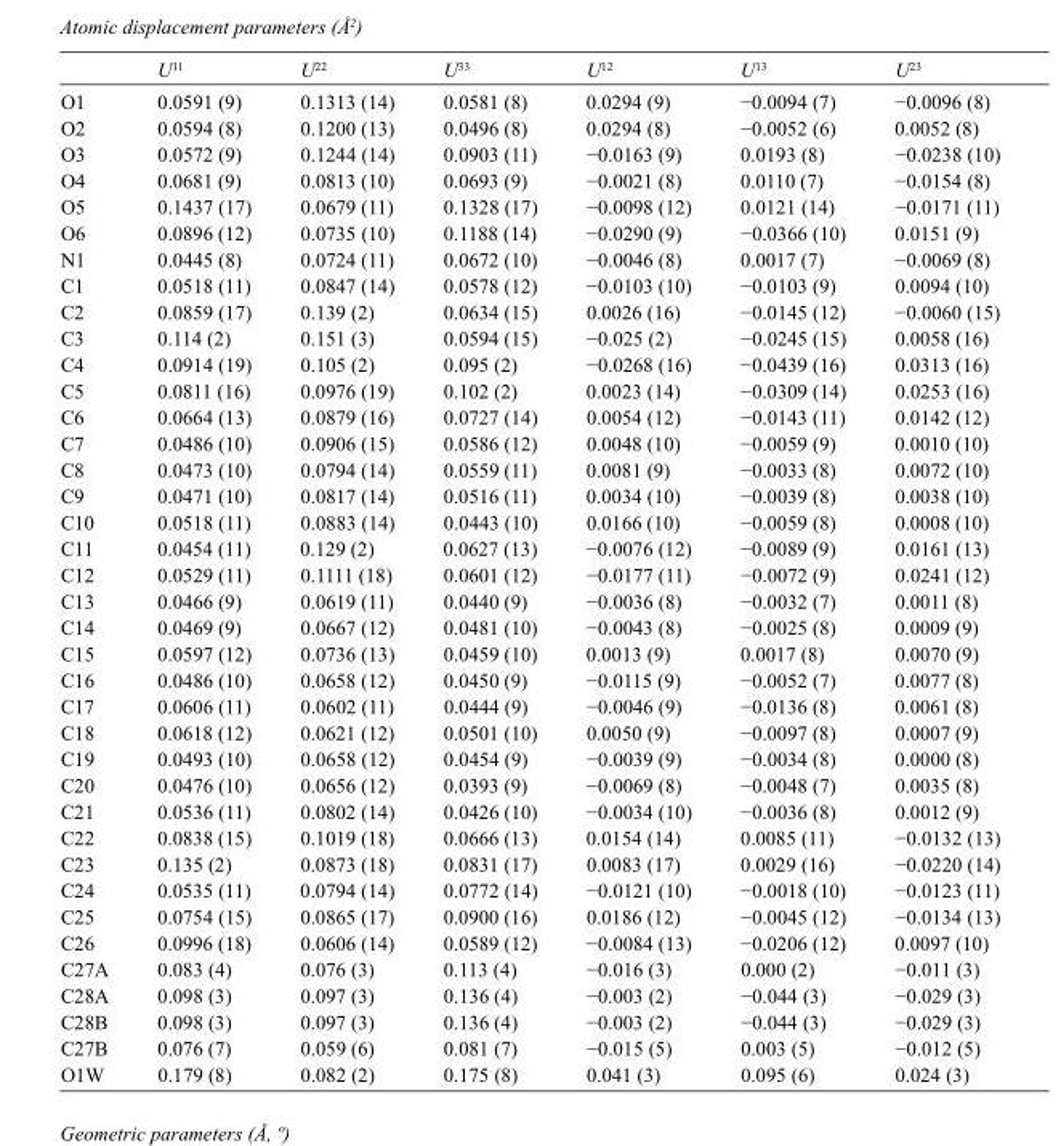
<table><thead><tr><td></td><td>U<sup>11</sup></td><td>U<sup>22</sup></td><td>U<sup>33</sup></td><td>U<sup>12</sup></td><td>U<sup>13</sup></td><td>U<sup>23</sup></td></tr></thead><tbody><tr><td>O1</td><td>0.0591 (9)</td><td>0.1313 (14)</td><td>0.0581 (8)</td><td>0.0294 (9)</td><td>−0.0094 (7)</td><td>−0.0096 (8)</td></tr><tr><td>O2</td><td>0.0594 (8)</td><td>0.1200 (13)</td><td>0.0496 (8)</td><td>0.0294 (8)</td><td>−0.0052 (6)</td><td>0.0052 (8)</td></tr><tr><td>O3</td><td>0.0572 (9)</td><td>0.1244 (14)</td><td>0.0903 (11)</td><td>−0.0163 (9)</td><td>0.0193 (8)</td><td>−0.0238 (10)</td></tr><tr><td>O4</td><td>0.0681 (9)</td><td>0.0813 (10)</td><td>0.0693 (9)</td><td>−0.0021 (8)</td><td>0.0110 (7)</td><td>−0.0154 (8)</td></tr><tr><td>O5</td><td>0.1437 (17)</td><td>0.0679 (11)</td><td>0.1328 (17)</td><td>−0.0098 (12)</td><td>0.0121 (14)</td><td>−0.0171 (11)</td></tr><tr><td>O6</td><td>0.0896 (12)</td><td>0.0735 (10)</td><td>0.1188 (14)</td><td>−0.0290 (9)</td><td>−0.0366 (10)</td><td>0.0151 (9)</td></tr><tr><td>N1</td><td>0.0445 (8)</td><td>0.0724 (11)</td><td>0.0672 (10)</td><td>−0.0046 (8)</td><td>0.0017 (7)</td><td>−0.0069 (8)</td></tr><tr><td>C1</td><td>0.0518 (11)</td><td>0.0847 (14)</td><td>0.0578 (12)</td><td>−0.0103 (10)</td><td>−0.0103 (9)</td><td>0.0094 (10)</td></tr><tr><td>C2</td><td>0.0859 (17)</td><td>0.139 (2)</td><td>0.0634 (15)</td><td>0.0026 (16)</td><td>−0.0145 (12)</td><td>−0.0060 (15)</td></tr><tr><td>C3</td><td>0.114 (2)</td><td>0.151 (3)</td><td>0.0594 (15)</td><td>−0.025 (2)</td><td>−0.0245 (15)</td><td>0.0058 (16)</td></tr><tr><td>C4</td><td>0.0914 (19)</td><td>0.105 (2)</td><td>0.095 (2)</td><td>−0.0268 (16)</td><td>−0.0439 (16)</td><td>0.0313 (16)</td></tr><tr><td>C5</td><td>0.0811 (16)</td><td>0.0976 (19)</td><td>0.102 (2)</td><td>0.0023 (14)</td><td>−0.0309 (14)</td><td>0.0253 (16)</td></tr><tr><td>C6</td><td>0.0664 (13)</td><td>0.0879 (16)</td><td>0.0727 (14)</td><td>0.0054 (12)</td><td>−0.0143 (11)</td><td>0.0142 (12)</td></tr><tr><td>C7</td><td>0.0486 (10)</td><td>0.0906 (15)</td><td>0.0586 (12)</td><td>0.0048 (10)</td><td>−0.0059 (9)</td><td>0.0010 (10)</td></tr><tr><td>C8</td><td>0.0473 (10)</td><td>0.0794 (14)</td><td>0.0559 (11)</td><td>0.0081 (9)</td><td>−0.0033 (8)</td><td>0.0072 (10)</td></tr><tr><td>C9</td><td>0.0471 (10)</td><td>0.0817 (14)</td><td>0.0516 (11)</td><td>0.0034 (10)</td><td>−0.0039 (8)</td><td>0.0038 (10)</td></tr><tr><td>C10</td><td>0.0518 (11)</td><td>0.0883 (14)</td><td>0.0443 (10)</td><td>0.0166 (10)</td><td>−0.0059 (8)</td><td>0.0008 (10)</td></tr><tr><td>C11</td><td>0.0454 (11)</td><td>0.129 (2)</td><td>0.0627 (13)</td><td>−0.0076 (12)</td><td>−0.0089 (9)</td><td>0.0161 (13)</td></tr><tr><td>C12</td><td>0.0529 (11)</td><td>0.1111 (18)</td><td>0.0601 (12)</td><td>−0.0177 (11)</td><td>−0.0072 (9)</td><td>0.0241 (12)</td></tr><tr><td>C13</td><td>0.0466 (9)</td><td>0.0619 (11)</td><td>0.0440 (9)</td><td>−0.0036 (8)</td><td>−0.0032 (7)</td><td>0.0011 (8)</td></tr><tr><td>C14</td><td>0.0469 (9)</td><td>0.0667 (12)</td><td>0.0481 (10)</td><td>−0.0043 (8)</td><td>−0.0025 (8)</td><td>0.0009 (9)</td></tr><tr><td>C15</td><td>0.0597 (12)</td><td>0.0736 (13)</td><td>0.0459 (10)</td><td>0.0013 (9)</td><td>0.0017 (8)</td><td>0.0070 (9)</td></tr><tr><td>C16</td><td>0.0486 (10)</td><td>0.0658 (12)</td><td>0.0450 (9)</td><td>−0.0115 (9)</td><td>−0.0052 (7)</td><td>0.0077 (8)</td></tr><tr><td>C17</td><td>0.0606 (11)</td><td>0.0602 (11)</td><td>0.0444 (9)</td><td>−0.0046 (9)</td><td>−0.0136 (8)</td><td>0.0061 (8)</td></tr><tr><td>C18</td><td>0.0618 (12)</td><td>0.0621 (12)</td><td>0.0501 (10)</td><td>0.0050 (9)</td><td>−0.0097 (8)</td><td>0.0007 (9)</td></tr><tr><td>C19</td><td>0.0493 (10)</td><td>0.0658 (12)</td><td>0.0454 (9)</td><td>−0.0039 (9)</td><td>−0.0034 (8)</td><td>0.0000 (8)</td></tr><tr><td>C20</td><td>0.0476 (10)</td><td>0.0656 (12)</td><td>0.0393 (9)</td><td>−0.0069 (8)</td><td>−0.0048 (7)</td><td>0.0035 (8)</td></tr><tr><td>C21</td><td>0.0536 (11)</td><td>0.0802 (14)</td><td>0.0426 (10)</td><td>−0.0034 (10)</td><td>−0.0036 (8)</td><td>0.0012 (9)</td></tr><tr><td>C22</td><td>0.0838 (15)</td><td>0.1019 (18)</td><td>0.0666 (13)</td><td>0.0154 (14)</td><td>0.0085 (11)</td><td>−0.0132 (13)</td></tr><tr><td>C23</td><td>0.135 (2)</td><td>0.0873 (18)</td><td>0.0831 (17)</td><td>0.0083 (17)</td><td>0.0029 (16)</td><td>−0.0220 (14)</td></tr><tr><td>C24</td><td>0.0535 (11)</td><td>0.0794 (14)</td><td>0.0772 (14)</td><td>−0.0121 (10)</td><td>−0.0018 (10)</td><td>−0.0123 (11)</td></tr><tr><td>C25</td><td>0.0754 (15)</td><td>0.0865 (17)</td><td>0.0900 (16)</td><td>0.0186 (12)</td><td>−0.0045 (12)</td><td>−0.0134 (13)</td></tr><tr><td>C26</td><td>0.0996 (18)</td><td>0.0606 (14)</td><td>0.0589 (12)</td><td>−0.0084 (13)</td><td>−0.0206 (12)</td><td>0.0097 (10)</td></tr><tr><td>C27A</td><td>0.083 (4)</td><td>0.076 (3)</td><td>0.113 (4)</td><td>−0.016 (3)</td><td>0.000 (2)</td><td>−0.011 (3)</td></tr><tr><td>C28A</td><td>0.098 (3)</td><td>0.097 (3)</td><td>0.136 (4)</td><td>−0.003 (2)</td><td>−0.044 (3)</td><td>−0.029 (3)</td></tr><tr><td>C28B</td><td>0.098 (3)</td><td>0.097 (3)</td><td>0.136 (4)</td><td>−0.003 (2)</td><td>−0.044 (3)</td><td>−0.029 (3)</td></tr><tr><td>C27B</td><td>0.076 (7)</td><td>0.059 (6)</td><td>0.081 (7)</td><td>−0.015 (5)</td><td>0.003 (5)</td><td>−0.012 (5)</td></tr><tr><td>O1W</td><td>0.179 (8)</td><td>0.082 (2)</td><td>0.175 (8)</td><td>0.041 (3)</td><td>0.095 (6)</td><td>0.024 (3)</td></tr></tbody></table>